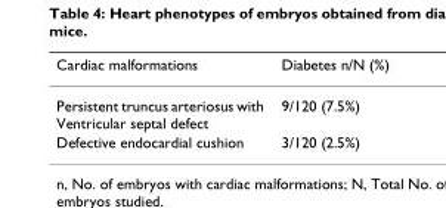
<table><thead><tr><td>Cardiac malformations</td><td>Diabetes n/N (%)</td></tr></thead><tbody><tr><td>Persistent truncus arteriosus with Ventricular septal defect</td><td>9/120 (7.5%)</td></tr><tr><td>Defective endocardial cushion</td><td>3/120 (2.5%)</td></tr></tbody></table>